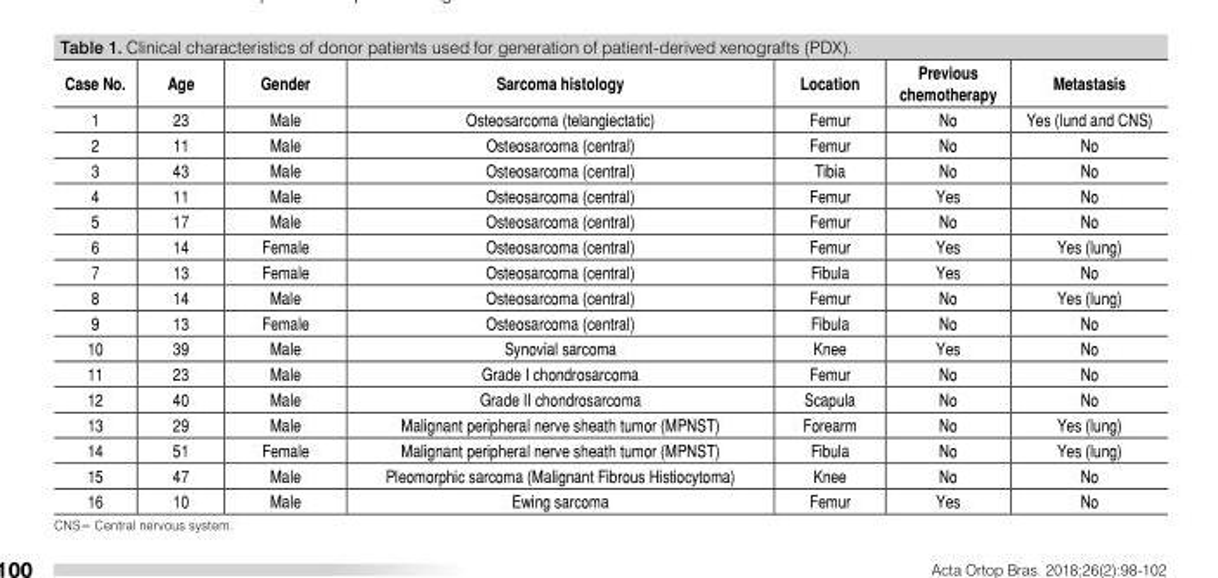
<table><thead><tr><td>Case No.</td><td>Age</td><td>Gender</td><td>Sarcoma histology</td><td>Location</td><td>Previous chemotherapy</td><td>Metastasis</td></tr></thead><tbody><tr><td>1</td><td>23</td><td>Male</td><td>Osteosarcoma (telangiectatic)</td><td>Femur</td><td>No</td><td>Yes (lund and CNS)</td></tr><tr><td>2</td><td>11</td><td>Male</td><td>Osteosarcoma (central)</td><td>Femur</td><td>No</td><td>No</td></tr><tr><td>3</td><td>43</td><td>Male</td><td>Osteosarcoma (central)</td><td>Tibia</td><td>No</td><td>No</td></tr><tr><td>4</td><td>11</td><td>Male</td><td>Osteosarcoma (central)</td><td>Femur</td><td>Yes</td><td>No</td></tr><tr><td>5</td><td>17</td><td>Male</td><td>Osteosarcoma (central)</td><td>Femur</td><td>No</td><td>No</td></tr><tr><td>6</td><td>14</td><td>Female</td><td>Osteosarcoma (central)</td><td>Femur</td><td>Yes</td><td>Yes (lung)</td></tr><tr><td>7</td><td>13</td><td>Female</td><td>Osteosarcoma (central)</td><td>Fibula</td><td>Yes</td><td>No</td></tr><tr><td>8</td><td>14</td><td>Male</td><td>Osteosarcoma (central)</td><td>Femur</td><td>No</td><td>Yes (lung)</td></tr><tr><td>9</td><td>13</td><td>Female</td><td>Osteosarcoma (central)</td><td>Fibula</td><td>No</td><td>No</td></tr><tr><td>10</td><td>39</td><td>Male</td><td>Synovial sarcoma</td><td>Knee</td><td>Yes</td><td>No</td></tr><tr><td>11</td><td>23</td><td>Male</td><td>Grade I chondrosarcoma</td><td>Femur</td><td>No</td><td>No</td></tr><tr><td>12</td><td>40</td><td>Male</td><td>Grade II chondrosarcoma</td><td>Scapula</td><td>No</td><td>No</td></tr><tr><td>13</td><td>29</td><td>Male</td><td>Malignant peripheral nerve sheath tumor (MPNST)</td><td>Forearm</td><td>No</td><td>Yes (lung)</td></tr><tr><td>14</td><td>51</td><td>Female</td><td>Malignant peripheral nerve sheath tumor (MPNST)</td><td>Fibula</td><td>No</td><td>Yes (lung)</td></tr><tr><td>15</td><td>47</td><td>Male</td><td>Pleomorphic sarcoma (Malignant Fibrous Histiocytoma)</td><td>Knee</td><td>No</td><td>No</td></tr><tr><td>16</td><td>10</td><td>Male</td><td>Ewing sarcoma</td><td>Femur</td><td>Yes</td><td>No</td></tr></tbody></table>